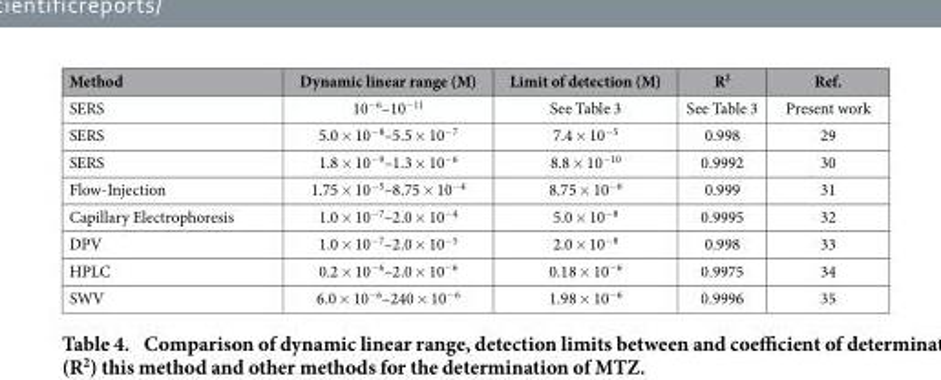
<table><thead><tr><td>Method</td><td>Dynamic linear range (M)</td><td>Limit of detection (M)</td><td>R<sup>2</sup></td><td>Ref.</td></tr></thead><tbody><tr><td>SERS</td><td>10<sup>−6</sup>–10<sup>−11</sup></td><td>See Table 3</td><td>See Table 3</td><td>Present work</td></tr><tr><td>SERS</td><td>5.0 × 10<sup>−8</sup>–5.5 × 10<sup>−7</sup></td><td>7.4 × 10<sup>−5</sup></td><td>0.998</td><td>29</td></tr><tr><td>SERS</td><td>1.8 × 10<sup>−9</sup>–1.3 × 10<sup>−6</sup></td><td>8.8 × 10<sup>−10</sup></td><td>0.9992</td><td>30</td></tr><tr><td>Flow-Injection</td><td>1.75 × 10<sup>−5</sup>–8.75 × 10<sup>−4</sup></td><td>8.75 × 10<sup>−6</sup></td><td>0.999</td><td>31</td></tr><tr><td>Capillary Electrophoresis</td><td>1.0 × 10<sup>−7</sup>–2.0 × 10<sup>−4</sup></td><td>5.0 × 10<sup>−8</sup></td><td>0.9995</td><td>32</td></tr><tr><td>DPV</td><td>1.0 × 10<sup>−7</sup>–2.0 × 10<sup>−5</sup></td><td>2.0 × 10<sup>−8</sup></td><td>0.998</td><td>33</td></tr><tr><td>HPLC</td><td>0.2 × 10<sup>−6</sup>–2.0 × 10<sup>−6</sup></td><td>0.18 × 10<sup>−6</sup></td><td>0.9975</td><td>34</td></tr><tr><td>SWV</td><td>6.0 × 10<sup>−6</sup>–240 × 10<sup>−6</sup></td><td>1.98 × 10<sup>−6</sup></td><td>0.9996</td><td>35</td></tr></tbody></table>